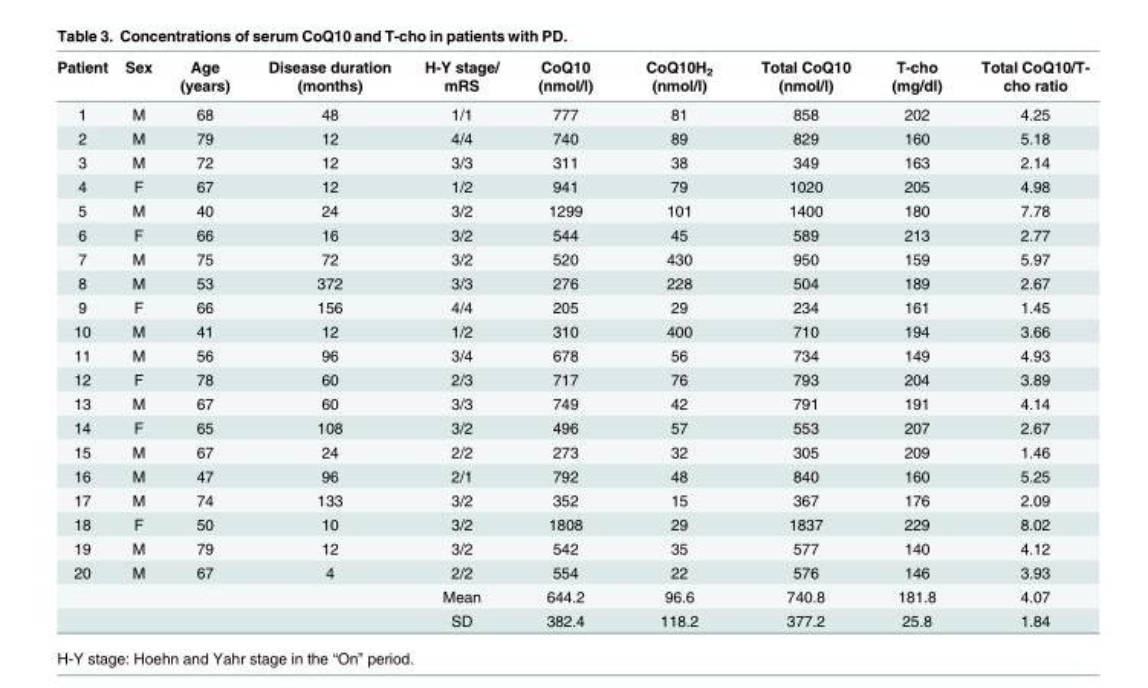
<table><thead><tr><td>Patient</td><td>Sex</td><td>Age (years)</td><td>Disease duration (months)</td><td>H-Y stage/ mRS</td><td>CoQ10 (nmol/l)</td><td>CoQ10H<sub>2</sub> (nmol/l)</td><td>Total CoQ10 (nmol/l)</td><td>T-cho (mg/dl)</td><td>Total CoQ10/T- cho ratio</td></tr></thead><tbody><tr><td>1</td><td>M</td><td>68</td><td>48</td><td>1/1</td><td>777</td><td>81</td><td>858</td><td>202</td><td>4.25</td></tr><tr><td>2</td><td>M</td><td>79</td><td>12</td><td>4/4</td><td>740</td><td>89</td><td>829</td><td>160</td><td>5.18</td></tr><tr><td>3</td><td>M</td><td>72</td><td>12</td><td>3/3</td><td>311</td><td>38</td><td>349</td><td>163</td><td>2.14</td></tr><tr><td>4</td><td>F</td><td>67</td><td>12</td><td>1/2</td><td>941</td><td>79</td><td>1020</td><td>205</td><td>4.98</td></tr><tr><td>5</td><td>M</td><td>40</td><td>24</td><td>3/2</td><td>1299</td><td>101</td><td>1400</td><td>180</td><td>7.78</td></tr><tr><td>6</td><td>F</td><td>66</td><td>16</td><td>3/2</td><td>544</td><td>45</td><td>589</td><td>213</td><td>2.77</td></tr><tr><td>7</td><td>M</td><td>75</td><td>72</td><td>3/2</td><td>520</td><td>430</td><td>950</td><td>159</td><td>5.97</td></tr><tr><td>8</td><td>M</td><td>53</td><td>372</td><td>3/3</td><td>276</td><td>228</td><td>504</td><td>189</td><td>2.67</td></tr><tr><td>9</td><td>F</td><td>66</td><td>156</td><td>4/4</td><td>205</td><td>29</td><td>234</td><td>161</td><td>1.45</td></tr><tr><td>10</td><td>M</td><td>41</td><td>12</td><td>1/2</td><td>310</td><td>400</td><td>710</td><td>194</td><td>3.66</td></tr><tr><td>11</td><td>M</td><td>56</td><td>96</td><td>3/4</td><td>678</td><td>56</td><td>734</td><td>149</td><td>4.93</td></tr><tr><td>12</td><td>F</td><td>78</td><td>60</td><td>2/3</td><td>717</td><td>76</td><td>793</td><td>204</td><td>3.89</td></tr><tr><td>13</td><td>M</td><td>67</td><td>60</td><td>3/3</td><td>749</td><td>42</td><td>791</td><td>191</td><td>4.14</td></tr><tr><td>14</td><td>F</td><td>65</td><td>108</td><td>3/2</td><td>496</td><td>57</td><td>553</td><td>207</td><td>2.67</td></tr><tr><td>15</td><td>M</td><td>67</td><td>24</td><td>2/2</td><td>273</td><td>32</td><td>305</td><td>209</td><td>1.46</td></tr><tr><td>16</td><td>M</td><td>47</td><td>96</td><td>2/1</td><td>792</td><td>48</td><td>840</td><td>160</td><td>5.25</td></tr><tr><td>17</td><td>M</td><td>74</td><td>133</td><td>3/2</td><td>352</td><td>15</td><td>367</td><td>176</td><td>2.09</td></tr><tr><td>18</td><td>F</td><td>50</td><td>10</td><td>3/2</td><td>1808</td><td>29</td><td>1837</td><td>229</td><td>8.02</td></tr><tr><td>19</td><td>M</td><td>79</td><td>12</td><td>3/2</td><td>542</td><td>35</td><td>577</td><td>140</td><td>4.12</td></tr><tr><td>20</td><td>M</td><td>67</td><td>4</td><td>2/2</td><td>554</td><td>22</td><td>576</td><td>146</td><td>3.93</td></tr><tr><td colspan="3"></td><td></td><td>Mean</td><td>644.2</td><td>96.6</td><td>740.8</td><td>181.8</td><td>4.07</td></tr><tr><td colspan="3"></td><td></td><td>SD</td><td>382.4</td><td>118.2</td><td>377.2</td><td>25.8</td><td>1.84</td></tr></tbody></table>